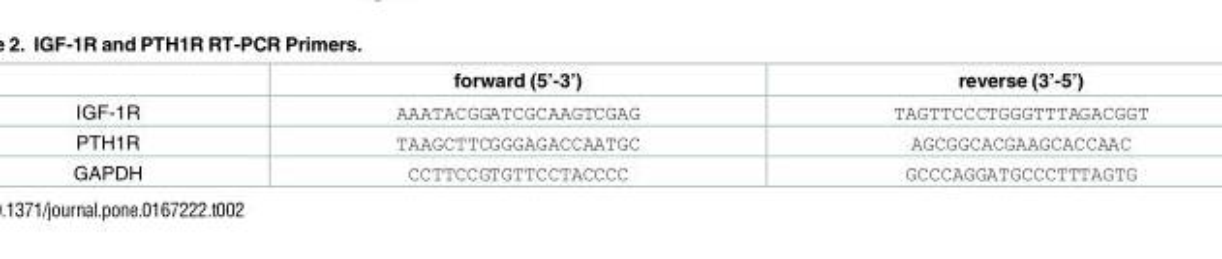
<table><thead><tr><td></td><td>forward (5’-3’)</td><td>reverse (3’-5’)</td></tr></thead><tbody><tr><td>IGF-1R</td><td>AAATACGGATCGCAAGTCGAG</td><td>TAGTTCCCTGGGTTTAGACGGT</td></tr><tr><td>PTH1R</td><td>TAAGCTTCGGGAGACCAATGC</td><td>AGCGGCACGAAGCACCAAC</td></tr><tr><td>GAPDH</td><td>CCTTCCGTGTTCCTACCCC</td><td>GCCCAGGATGCCCTTTAGTG</td></tr></tbody></table>